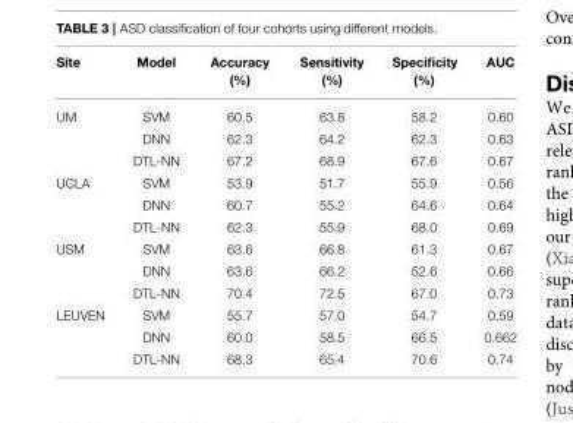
<table><thead><tr><td>Site</td><td>Model</td><td>Accuracy (%)</td><td>Sensitivity (%)</td><td>Specificity (%)</td><td>AUC</td></tr></thead><tbody><tr><td rowspan="3">UM</td><td>SVM</td><td>60.5</td><td>63.8</td><td>58.2</td><td>0.60</td></tr><tr><td>DNN</td><td>62.3</td><td>64.2</td><td>62.3</td><td>0.63</td></tr><tr><td>DTL-NN</td><td>67.2</td><td>68.9</td><td>67.6</td><td>0.67</td></tr><tr><td rowspan="3">UCLA</td><td>SVM</td><td>53.9</td><td>51.7</td><td>55.9</td><td>0.56</td></tr><tr><td>DNN</td><td>60.7</td><td>55.2</td><td>64.6</td><td>0.64</td></tr><tr><td>DTL-NN</td><td>62.3</td><td>55.9</td><td>68.0</td><td>0.69</td></tr><tr><td rowspan="3">USM</td><td>SVM</td><td>63.6</td><td>66.8</td><td>61.3</td><td>0.67</td></tr><tr><td>DNN</td><td>63.6</td><td>66.2</td><td>52.6</td><td>0.66</td></tr><tr><td>DTL-NN</td><td>70.4</td><td>72.5</td><td>67.0</td><td>0.73</td></tr><tr><td rowspan="3">LEUVEN</td><td>SVM</td><td>55.7</td><td>57.0</td><td>54.7</td><td>0.59</td></tr><tr><td>DNN</td><td>60.0</td><td>58.5</td><td>66.5</td><td>0.662</td></tr><tr><td>DTL-NN</td><td>68.3</td><td>65.4</td><td>70.6</td><td>0.74</td></tr></tbody></table>